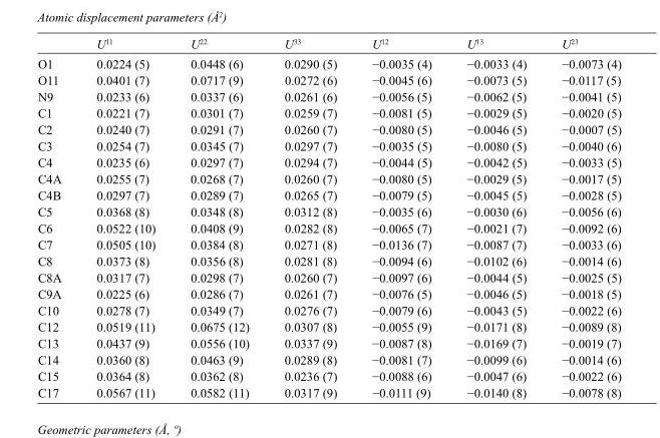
<table><thead><tr><td></td><td>U<sup>11</sup></td><td>U<sup>22</sup></td><td>U<sup>33</sup></td><td>U<sup>12</sup></td><td>U<sup>13</sup></td><td>U<sup>23</sup></td></tr></thead><tbody><tr><td>O1</td><td>0.0224 (5)</td><td>0.0448 (6)</td><td>0.0290 (5)</td><td>−0.0035 (4)</td><td>−0.0033 (4)</td><td>−0.0073 (4)</td></tr><tr><td>O11</td><td>0.0401 (7)</td><td>0.0717 (9)</td><td>0.0272 (6)</td><td>−0.0045 (6)</td><td>−0.0073 (5)</td><td>−0.0117 (5)</td></tr><tr><td>N9</td><td>0.0233 (6)</td><td>0.0337 (6)</td><td>0.0261 (6)</td><td>−0.0056 (5)</td><td>−0.0062 (5)</td><td>−0.0041 (5)</td></tr><tr><td>C1</td><td>0.0221 (7)</td><td>0.0301 (7)</td><td>0.0259 (7)</td><td>−0.0081 (5)</td><td>−0.0029 (5)</td><td>−0.0020 (5)</td></tr><tr><td>C2</td><td>0.0240 (7)</td><td>0.0291 (7)</td><td>0.0260 (7)</td><td>−0.0080 (5)</td><td>−0.0046 (5)</td><td>−0.0007 (5)</td></tr><tr><td>C3</td><td>0.0254 (7)</td><td>0.0345 (7)</td><td>0.0297 (7)</td><td>−0.0035 (5)</td><td>−0.0080 (5)</td><td>−0.0040 (6)</td></tr><tr><td>C4</td><td>0.0235 (6)</td><td>0.0297 (7)</td><td>0.0294 (7)</td><td>−0.0044 (5)</td><td>−0.0042 (5)</td><td>−0.0033 (5)</td></tr><tr><td>C4A</td><td>0.0255 (7)</td><td>0.0268 (7)</td><td>0.0260 (7)</td><td>−0.0080 (5)</td><td>−0.0029 (5)</td><td>−0.0017 (5)</td></tr><tr><td>C4B</td><td>0.0297 (7)</td><td>0.0289 (7)</td><td>0.0265 (7)</td><td>−0.0079 (5)</td><td>−0.0045 (5)</td><td>−0.0028 (5)</td></tr><tr><td>C5</td><td>0.0368 (8)</td><td>0.0348 (8)</td><td>0.0312 (8)</td><td>−0.0035 (6)</td><td>−0.0030 (6)</td><td>−0.0056 (6)</td></tr><tr><td>C6</td><td>0.0522 (10)</td><td>0.0408 (9)</td><td>0.0282 (8)</td><td>−0.0065 (7)</td><td>−0.0021 (7)</td><td>−0.0092 (6)</td></tr><tr><td>C7</td><td>0.0505 (10)</td><td>0.0384 (8)</td><td>0.0271 (8)</td><td>−0.0136 (7)</td><td>−0.0087 (7)</td><td>−0.0033 (6)</td></tr><tr><td>C8</td><td>0.0373 (8)</td><td>0.0356 (8)</td><td>0.0281 (8)</td><td>−0.0094 (6)</td><td>−0.0102 (6)</td><td>−0.0014 (6)</td></tr><tr><td>C8A</td><td>0.0317 (7)</td><td>0.0298 (7)</td><td>0.0260 (7)</td><td>−0.0097 (6)</td><td>−0.0044 (5)</td><td>−0.0025 (5)</td></tr><tr><td>C9A</td><td>0.0225 (6)</td><td>0.0286 (7)</td><td>0.0261 (7)</td><td>−0.0076 (5)</td><td>−0.0046 (5)</td><td>−0.0018 (5)</td></tr><tr><td>C10</td><td>0.0278 (7)</td><td>0.0349 (7)</td><td>0.0276 (7)</td><td>−0.0079 (6)</td><td>−0.0043 (5)</td><td>−0.0022 (6)</td></tr><tr><td>C12</td><td>0.0519 (11)</td><td>0.0675 (12)</td><td>0.0307 (8)</td><td>−0.0055 (9)</td><td>−0.0171 (8)</td><td>−0.0089 (8)</td></tr><tr><td>C13</td><td>0.0437 (9)</td><td>0.0556 (10)</td><td>0.0337 (9)</td><td>−0.0087 (8)</td><td>−0.0169 (7)</td><td>−0.0019 (7)</td></tr><tr><td>C14</td><td>0.0360 (8)</td><td>0.0463 (9)</td><td>0.0289 (8)</td><td>−0.0081 (7)</td><td>−0.0099 (6)</td><td>−0.0014 (6)</td></tr><tr><td>C15</td><td>0.0364 (8)</td><td>0.0362 (8)</td><td>0.0236 (7)</td><td>−0.0088 (6)</td><td>−0.0047 (6)</td><td>−0.0022 (6)</td></tr><tr><td>C17</td><td>0.0567 (11)</td><td>0.0582 (11)</td><td>0.0317 (9)</td><td>−0.0111 (9)</td><td>−0.0140 (8)</td><td>−0.0078 (8)</td></tr></tbody></table>